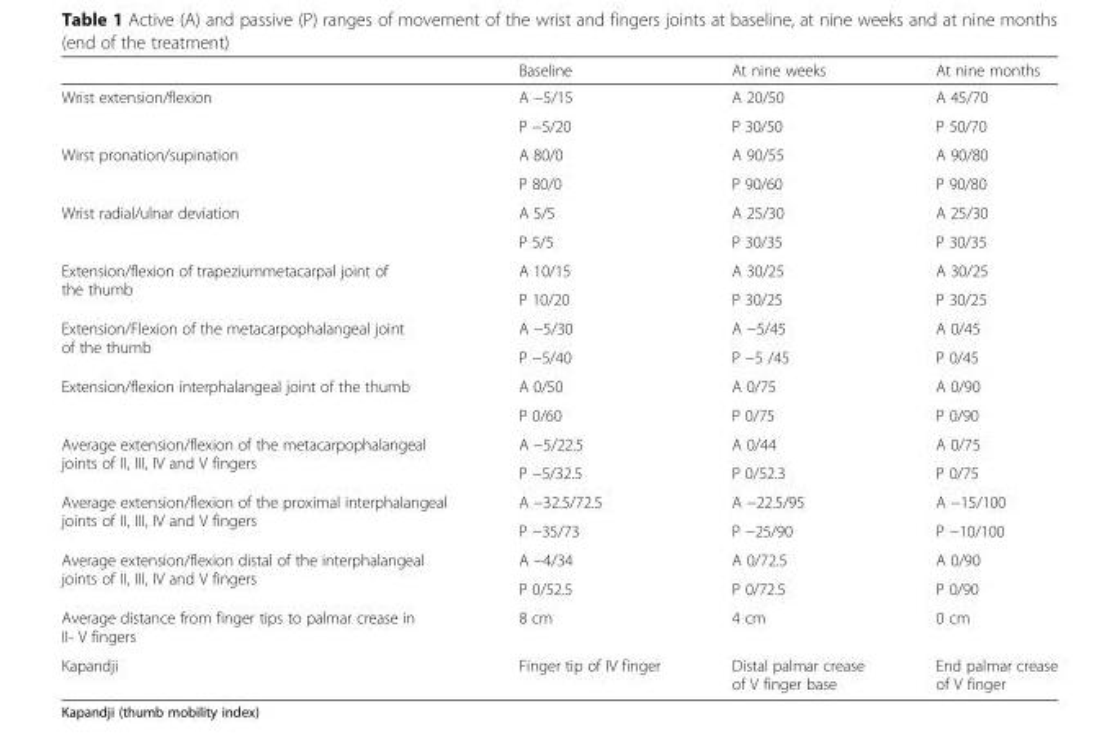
<table><thead><tr><td></td><td>Baseline</td><td>At nine weeks</td><td>At nine months</td></tr></thead><tbody><tr><td rowspan="2">Wrist extension/flexion</td><td>A −5/15</td><td>A 20/50</td><td>A 45/70</td></tr><tr><td>P −5/20</td><td>P 30/50</td><td>P 50/70</td></tr><tr><td rowspan="2">Wirst pronation/supination</td><td>A 80/0</td><td>A 90/55</td><td>A 90/80</td></tr><tr><td>P 80/0</td><td>P 90/60</td><td>P 90/80</td></tr><tr><td rowspan="2">Wrist radial/ulnar deviation</td><td>A 5/5</td><td>A 25/30</td><td>A 25/30</td></tr><tr><td>P 5/5</td><td>P 30/35</td><td>P 30/35</td></tr><tr><td rowspan="2">Extension/flexion of trapeziummetacarpal joint of the thumb</td><td>A 10/15</td><td>A 30/25</td><td>A 30/25</td></tr><tr><td>P 10/20</td><td>P 30/25</td><td>P 30/25</td></tr><tr><td rowspan="2">Extension/Flexion of the metacarpophalangeal joint of the thumb</td><td>A −5/30</td><td>A −5/45</td><td>A 0/45</td></tr><tr><td>P −5/40</td><td>P −5 /45</td><td>P 0/45</td></tr><tr><td rowspan="2">Extension/flexion interphalangeal joint of the thumb</td><td>A 0/50</td><td>A 0/75</td><td>A 0/90</td></tr><tr><td>P 0/60</td><td>P 0/75</td><td>P 0/90</td></tr><tr><td rowspan="2">Average extension/flexion of the metacarpophalangeal joints of II, III, IV and V fingers</td><td>A −5/22.5</td><td>A 0/44</td><td>A 0/75</td></tr><tr><td>P −5/32.5</td><td>P 0/52.3</td><td>P 0/75</td></tr><tr><td rowspan="2">Average extension/flexion of the proximal interphalangeal joints of II, III, IV and V fingers</td><td>A −32.5/72.5</td><td>A −22.5/95</td><td>A −15/100</td></tr><tr><td>P −35/73</td><td>P −25/90</td><td>P −10/100</td></tr><tr><td rowspan="2">Average extension/flexion distal of the interphalangeal joints of II, III, IV and V fingers</td><td>A −4/34</td><td>A 0/72.5</td><td>A 0/90</td></tr><tr><td>P 0/52.5</td><td>P 0/72.5</td><td>P 0/90</td></tr><tr><td>Average distance from finger tips to palmar crease in II- V fingers</td><td>8 cm</td><td>4 cm</td><td>0 cm</td></tr><tr><td>Kapandji</td><td>Finger tip of IV finger</td><td>Distal palmar crease of V finger base</td><td>End palmar crease of V finger</td></tr></tbody></table>